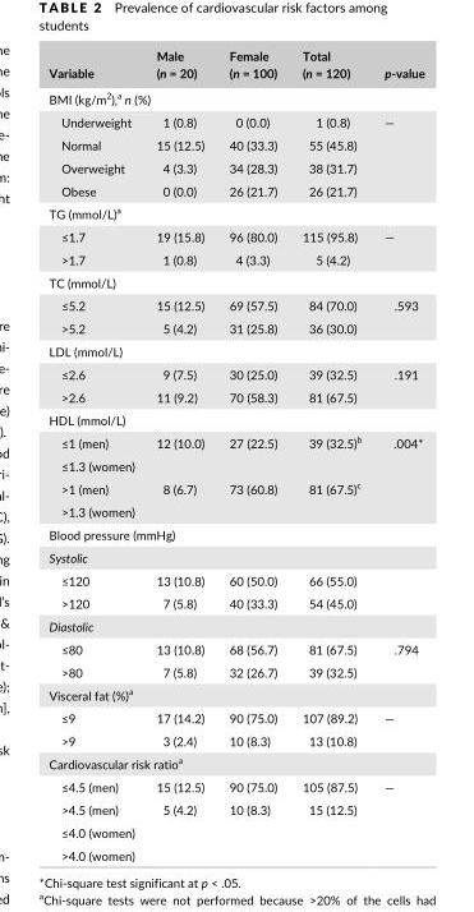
<table><thead><tr><td>Variable</td><td>Male (n = 20)</td><td>Female (n = 100)</td><td>Total (n = 120)</td><td>p- value</td></tr></thead><tbody><tr><td colspan="5">BMI (kg/m2),a n (%)</td></tr><tr><td>Underweight</td><td>1 (0.8)</td><td>0 (0.0)</td><td>1 (0.8)</td><td rowspan="4">—</td></tr><tr><td>Normal</td><td>15 (12.5)</td><td>40 (33.3)</td><td>55 (45.8)</td></tr><tr><td>Overweight</td><td>4 (3.3)</td><td>34 (28.3)</td><td>38 (31.7)</td></tr><tr><td>Obese</td><td>0 (0.0)</td><td>26 (21.7)</td><td>26 (21.7)</td></tr><tr><td colspan="5">TG (mmol/L)a</td></tr><tr><td>≤1.7</td><td>19 (15.8)</td><td>96 (80.0)</td><td>115 (95.8)</td><td rowspan="2">—</td></tr><tr><td>&gt;1.7</td><td>1 (0.8)</td><td>4 (3.3)</td><td>5 (4.2)</td></tr><tr><td colspan="5">TC (mmol/L)</td></tr><tr><td>≤5.2</td><td>15 (12.5)</td><td>69 (57.5)</td><td>84 (70.0)</td><td rowspan="2">.593</td></tr><tr><td>&gt;5.2</td><td>5 (4.2)</td><td>31 (25.8)</td><td>36 (30.0)</td></tr><tr><td colspan="5">LDL (mmol/L)</td></tr><tr><td>≤2.6</td><td>9 (7.5)</td><td>30 (25.0)</td><td>39 (32.5)</td><td rowspan="2">.191</td></tr><tr><td>&gt;2.6</td><td>11 (9.2)</td><td>70 (58.3)</td><td>81 (67.5)</td></tr><tr><td colspan="5">HDL (mmol/L)</td></tr><tr><td>≤1 (men)</td><td>12 (10.0)</td><td>27 (22.5)</td><td>39 (32.5)b</td><td rowspan="4">.004*</td></tr><tr><td colspan="4">≤1.3 (women)</td></tr><tr><td>&gt;1 (men)</td><td>8 (6.7)</td><td>73 (60.8)</td><td>81 (67.5)c</td></tr><tr><td colspan="4">&gt;1.3 (women)</td></tr><tr><td colspan="5">Blood pressure (mmHg)</td></tr><tr><td colspan="5">Systolic</td></tr><tr><td>≤120</td><td>13 (10.8)</td><td>60 (50.0)</td><td>66 (55.0)</td><td rowspan="2"></td></tr><tr><td>&gt;120</td><td>7 (5.8)</td><td>40 (33.3)</td><td>54 (45.0)</td></tr><tr><td colspan="5">Diastolic</td></tr><tr><td>≤80</td><td>13 (10.8)</td><td>68 (56.7)</td><td>81 (67.5)</td><td rowspan="2">.794</td></tr><tr><td>&gt;80</td><td>7 (5.8)</td><td>32 (26.7)</td><td>39 (32.5)</td></tr><tr><td colspan="5">Visceral fat (%)a</td></tr><tr><td>≤9</td><td>17 (14.2)</td><td>90 (75.0)</td><td>107 (89.2)</td><td rowspan="2">—</td></tr><tr><td>&gt;9</td><td>3 (2.4)</td><td>10 (8.3)</td><td>13 (10.8)</td></tr><tr><td colspan="5">Cardiovascular risk ratioa</td></tr><tr><td>≤4.5 (men)</td><td>15 (12.5)</td><td>90 (75.0)</td><td>105 (87.5)</td><td rowspan="4">—</td></tr><tr><td>&gt;4.5 (men)</td><td>5 (4.2)</td><td>10 (8.3)</td><td>15 (12.5)</td></tr><tr><td colspan="4">≤4.0 (women)</td></tr><tr><td>&gt;4.0 (women)</td><td></td><td></td><td></td></tr></tbody></table>